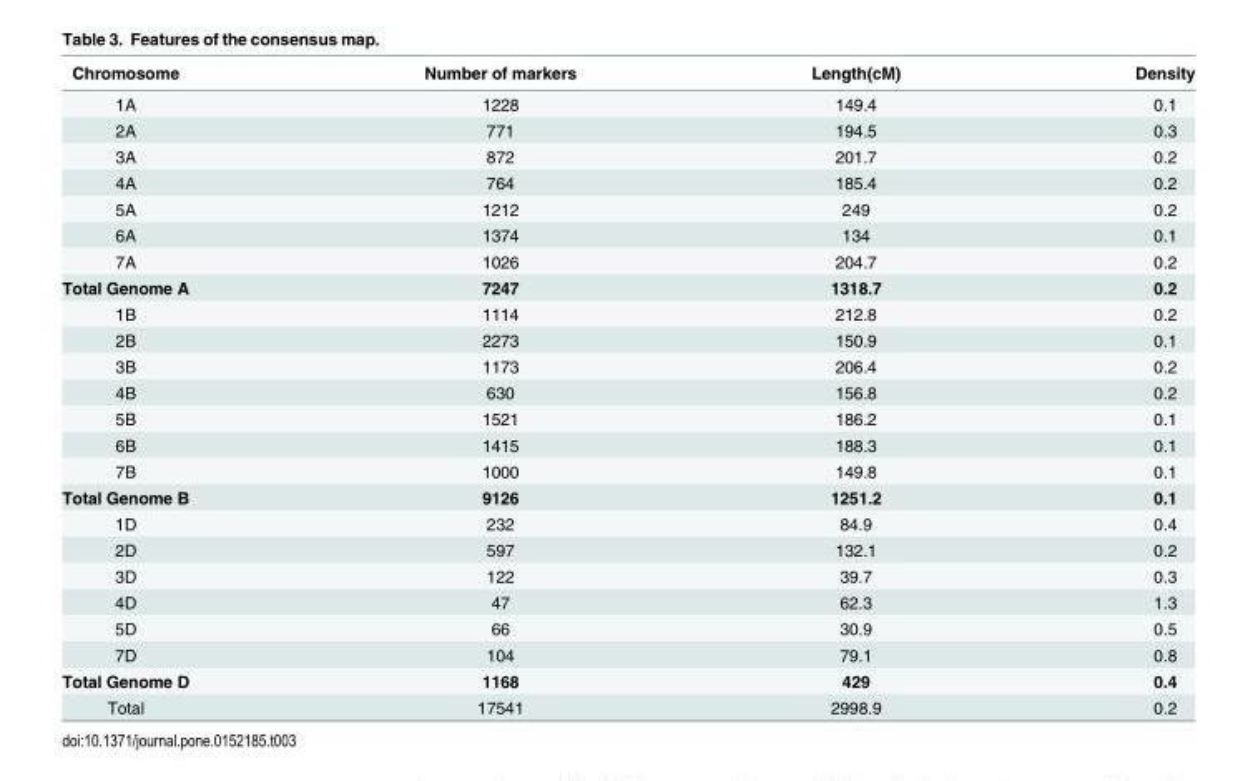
<table><thead><tr><td>Chromosome</td><td>Number of markers</td><td>Length(cM)</td><td>Density</td></tr></thead><tbody><tr><td>1A</td><td>1228</td><td>149.4</td><td>0.1</td></tr><tr><td>2A</td><td>771</td><td>194.5</td><td>0.3</td></tr><tr><td>3A</td><td>872</td><td>201.7</td><td>0.2</td></tr><tr><td>4A</td><td>764</td><td>185.4</td><td>0.2</td></tr><tr><td>5A</td><td>1212</td><td>249</td><td>0.2</td></tr><tr><td>6A</td><td>1374</td><td>134</td><td>0.1</td></tr><tr><td>7A</td><td>1026</td><td>204.7</td><td>0.2</td></tr><tr><td>Total Genome A</td><td>7247</td><td>1318.7</td><td>0.2</td></tr><tr><td>1B</td><td>1114</td><td>212.8</td><td>0.2</td></tr><tr><td>2B</td><td>2273</td><td>150.9</td><td>0.1</td></tr><tr><td>3B</td><td>1173</td><td>206.4</td><td>0.2</td></tr><tr><td>4B</td><td>630</td><td>156.8</td><td>0.2</td></tr><tr><td>5B</td><td>1521</td><td>186.2</td><td>0.1</td></tr><tr><td>6B</td><td>1415</td><td>188.3</td><td>0.1</td></tr><tr><td>7B</td><td>1000</td><td>149.8</td><td>0.1</td></tr><tr><td>Total Genome B</td><td>9126</td><td>1251.2</td><td>0.1</td></tr><tr><td>1D</td><td>232</td><td>84.9</td><td>0.4</td></tr><tr><td>2D</td><td>597</td><td>132.1</td><td>0.2</td></tr><tr><td>3D</td><td>122</td><td>39.7</td><td>0.3</td></tr><tr><td>4D</td><td>47</td><td>62.3</td><td>1.3</td></tr><tr><td>5D</td><td>66</td><td>30.9</td><td>0.5</td></tr><tr><td>7D</td><td>104</td><td>79.1</td><td>0.8</td></tr><tr><td>Total Genome D</td><td>1168</td><td>429</td><td>0.4</td></tr><tr><td>Total</td><td>17541</td><td>2998.9</td><td>0.2</td></tr></tbody></table>